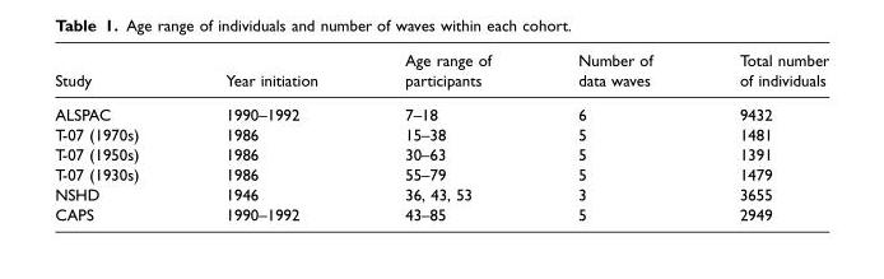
<table><thead><tr><td>Study</td><td>Year initiation</td><td>Age range of participants</td><td>Number of data waves</td><td>Total number of individuals</td></tr></thead><tbody><tr><td>ALSPAC</td><td>1990–1992</td><td>7–18</td><td>6</td><td>9432</td></tr><tr><td>T-07 (1970s)</td><td>1986</td><td>15–38</td><td>5</td><td>1481</td></tr><tr><td>T-07 (1950s)</td><td>1986</td><td>30–63</td><td>5</td><td>1391</td></tr><tr><td>T-07 (1930s)</td><td>1986</td><td>55–79</td><td>5</td><td>1479</td></tr><tr><td>NSHD</td><td>1946</td><td>36, 43, 53</td><td>3</td><td>3655</td></tr><tr><td>CAPS</td><td>1990–1992</td><td>43–85</td><td>5</td><td>2949</td></tr></tbody></table>